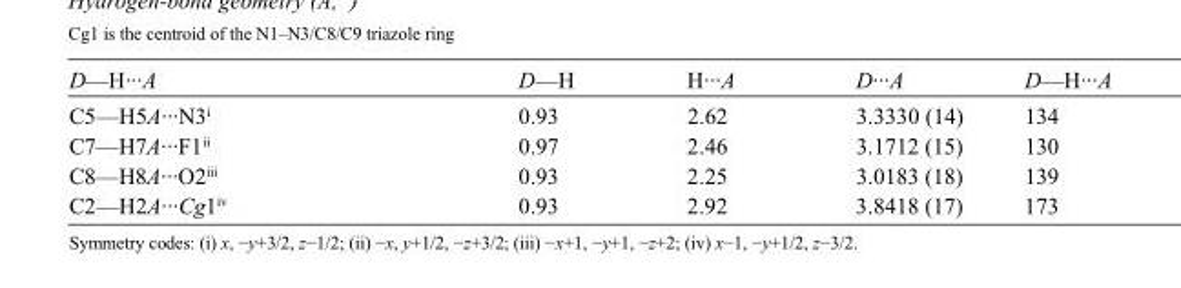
<table><tbody><tr><td>D—H···A</td><td>D—H</td><td>H···A</td><td>D···A</td><td>D—H···A</td></tr><tr><td>C5—H5A···N3<sup>i</sup></td><td>0.93</td><td>2.62</td><td>3.3330 (14)</td><td>134</td></tr><tr><td>C7—H7A···F1<sup>ii</sup></td><td>0.97</td><td>2.46</td><td>3.1712 (15)</td><td>130</td></tr><tr><td>C8—H8A···O2<sup>iii</sup></td><td>0.93</td><td>2.25</td><td>3.0183 (18)</td><td>139</td></tr><tr><td>C2—H2A···Cg1<sup>iv</sup></td><td>0.93</td><td>2.92</td><td>3.8418 (17)</td><td>173</td></tr></tbody></table>